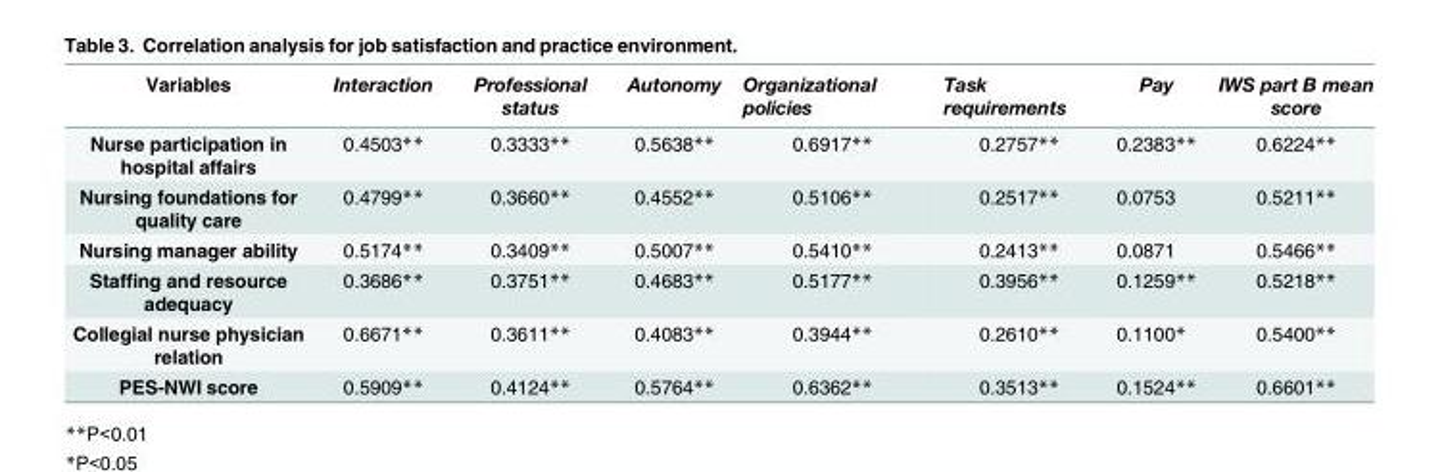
<table><thead><tr><td>Variables</td><td>Interaction</td><td>Professional status</td><td>Autonomy</td><td>Organizational policies</td><td>Task requirements</td><td>Pay</td><td>IWS part B mean score</td></tr></thead><tbody><tr><td>Nurse participation in hospital affairs</td><td>0.4503**</td><td>0.3333**</td><td>0.5638**</td><td>0.6917**</td><td>0.2757**</td><td>0.2383**</td><td>0.6224**</td></tr><tr><td>Nursing foundations for quality care</td><td>0.4799**</td><td>0.3660**</td><td>0.4552**</td><td>0.5106**</td><td>0.2517**</td><td>0.0753</td><td>0.5211**</td></tr><tr><td>Nursing manager ability</td><td>0.5174**</td><td>0.3409**</td><td>0.5007**</td><td>0.5410**</td><td>0.2413**</td><td>0.0871</td><td>0.5466**</td></tr><tr><td>Staffing and resource adequacy</td><td>0.3686**</td><td>0.3751**</td><td>0.4683**</td><td>0.5177**</td><td>0.3956**</td><td>0.1259**</td><td>0.5218**</td></tr><tr><td>Collegial nurse physician relation</td><td>0.6671**</td><td>0.3611**</td><td>0.4083**</td><td>0.3944**</td><td>0.2610**</td><td>0.1100*</td><td>0.5400**</td></tr><tr><td>PES-NWI score</td><td>0.5909**</td><td>0.4124**</td><td>0.5764**</td><td>0.6362**</td><td>0.3513**</td><td>0.1524**</td><td>0.6601**</td></tr></tbody></table>